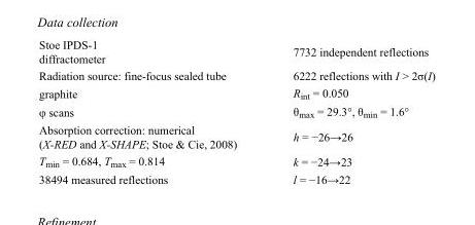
<table><tbody><tr><td>Stoe IPDS-1 diffractometer</td><td>7732 independent reflections</td></tr><tr><td>Radiation source: fine-focus sealed tube</td><td>6222 reflections with I &gt; 2σ(I)</td></tr><tr><td>graphite</td><td>R<sub>int</sub> = 0.050</td></tr><tr><td>φ scans</td><td>θ<sub>max</sub> = 29.3°, θ<sub>min</sub> = 1.6°</td></tr><tr><td>Absorption correction: numerical (X-RED and X-SHAPE; Stoe &amp; Cie, 2008)</td><td>h = −26→26</td></tr><tr><td>T<sub>min</sub> = 0.684, T<sub>max</sub> = 0.814</td><td>k = −24→23</td></tr><tr><td>38494 measured reflections</td><td>l = −16→22</td></tr></tbody></table>